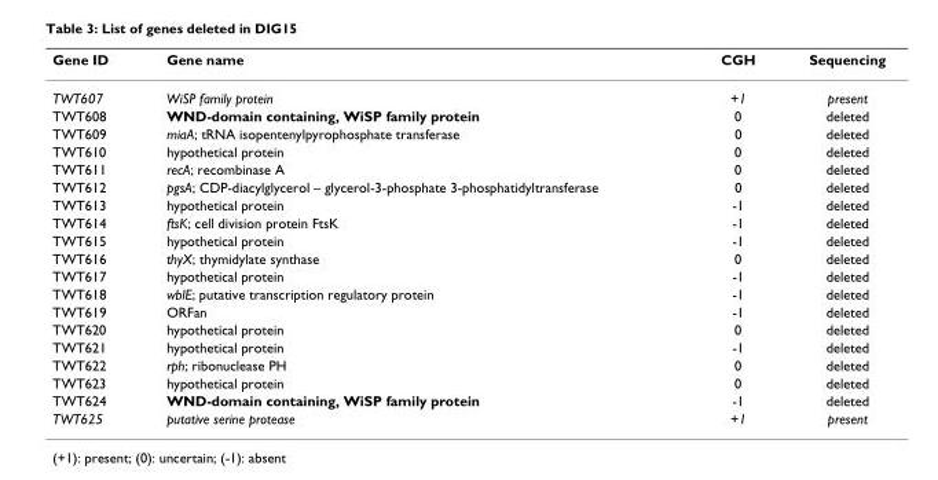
<table><thead><tr><td>Gene ID</td><td>Gene name</td><td>CGH</td><td>Sequencing</td></tr></thead><tbody><tr><td>TWT607</td><td>WiSP family protein</td><td>+1</td><td>present</td></tr><tr><td>TWT608</td><td>WND-domain containing, WiSP family protein</td><td>0</td><td>deleted</td></tr><tr><td>TWT609</td><td>miaA; tRNA isopentenylpyrophosphate transferase</td><td>0</td><td>deleted</td></tr><tr><td>TWT610</td><td>hypothetical protein</td><td>0</td><td>deleted</td></tr><tr><td>TWT611</td><td>recA; recombinase A</td><td>0</td><td>deleted</td></tr><tr><td>TWT612</td><td>pgsA; CDP-diacylglycerol – glycerol-3-phosphate 3-phosphatidyltransferase</td><td>0</td><td>deleted</td></tr><tr><td>TWT613</td><td>hypothetical protein</td><td>-1</td><td>deleted</td></tr><tr><td>TWT614</td><td>ftsK; cell division protein FtsK</td><td>-1</td><td>deleted</td></tr><tr><td>TWT615</td><td>hypothetical protein</td><td>-1</td><td>deleted</td></tr><tr><td>TWT616</td><td>thyX; thymidylate synthase</td><td>0</td><td>deleted</td></tr><tr><td>TWT617</td><td>hypothetical protein</td><td>-1</td><td>deleted</td></tr><tr><td>TWT618</td><td>wblE; putative transcription regulatory protein</td><td>-1</td><td>deleted</td></tr><tr><td>TWT619</td><td>ORFan</td><td>-1</td><td>deleted</td></tr><tr><td>TWT620</td><td>hypothetical protein</td><td>0</td><td>deleted</td></tr><tr><td>TWT621</td><td>hypothetical protein</td><td>-1</td><td>deleted</td></tr><tr><td>TWT622</td><td>rph; ribonuclease PH</td><td>0</td><td>deleted</td></tr><tr><td>TWT623</td><td>hypothetical protein</td><td>0</td><td>deleted</td></tr><tr><td>TWT624</td><td>WND-domain containing, WiSP family protein</td><td>-1</td><td>deleted</td></tr><tr><td>TWT625</td><td>putative serine protease</td><td>+1</td><td>present</td></tr></tbody></table>